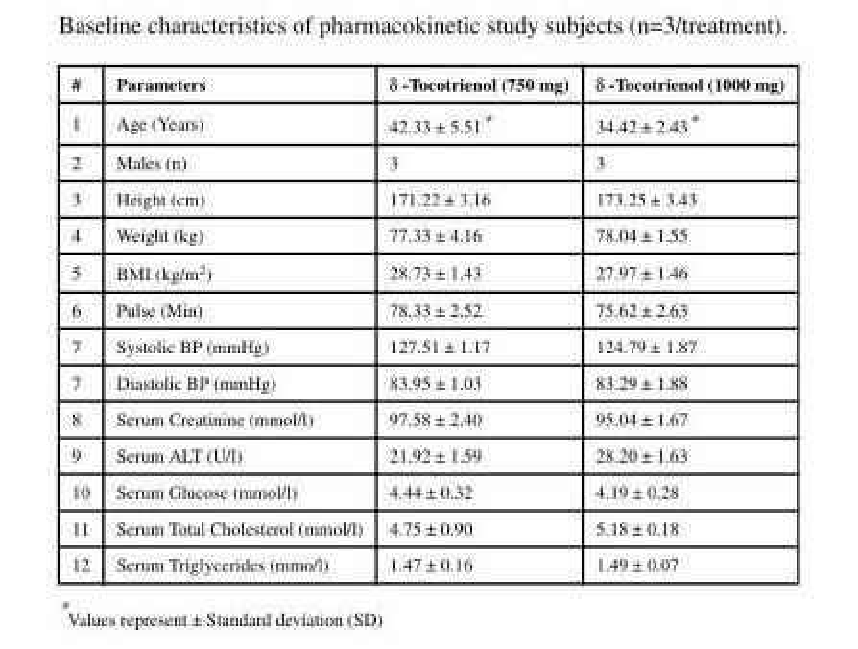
<table><thead><tr><td>#</td><td>Parameters</td><td>δ -Tocotrienol (750 mg)</td><td>δ -Tocotrienol (1000 mg)</td></tr></thead><tbody><tr><td>1</td><td>Age (Years)</td><td>42.33 ± 5.51*</td><td>34.42 ± 2.43*</td></tr><tr><td>2</td><td>Males (n)</td><td>3</td><td>3</td></tr><tr><td>3</td><td>Height (cm)</td><td>171.22 ± 3.16</td><td>173.25 ± 3.43</td></tr><tr><td>4</td><td>Weight (kg)</td><td>77.33 ± 4.16</td><td>78.04 ± 1.55</td></tr><tr><td>5</td><td>BMI (kg/m<sup>2</sup>)</td><td>28.73 ± 1.43</td><td>27.97 ± 1.46</td></tr><tr><td>6</td><td>Pulse (Min)</td><td>78.33 ± 2.52</td><td>75.62 ± 2.63</td></tr><tr><td>7</td><td>Systolic BP (mmHg)</td><td>127.51 ± 1.17</td><td>124.79 ± 1.87</td></tr><tr><td>7</td><td>Diastolic BP (mmHg)</td><td>83.95 ± 1.03</td><td>83.29 ± 1.88</td></tr><tr><td>8</td><td>Serum Creatinine (mmol/l)</td><td>97.58 ± 2.40</td><td>95.04 ± 1.67</td></tr><tr><td>9</td><td>Serum ALT (U/l)</td><td>21.92 ± 1.59</td><td>28.20 ± 1.63</td></tr><tr><td>10</td><td>Serum Glucose (mmol/l)</td><td>4.44 ± 0.32</td><td>4.19 ± 0.28</td></tr><tr><td>11</td><td>Serum Total Cholesterol (mmol/l)</td><td>4.75 ± 0.90</td><td>5.18 ± 0.18</td></tr><tr><td>12</td><td>Serum Triglycerides (mmo/l)</td><td>1.47 ± 0.16</td><td>1.49 ± 0.07</td></tr></tbody></table>